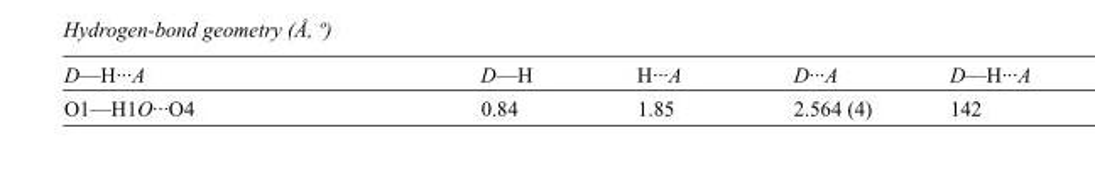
<table><tbody><tr><td>D—H···A</td><td>D—H</td><td>H···A</td><td>D···A</td><td>D—H···A</td></tr><tr><td>O1—H1O···O4</td><td>0.84</td><td>1.85</td><td>2.564 (4)</td><td>142</td></tr></tbody></table>